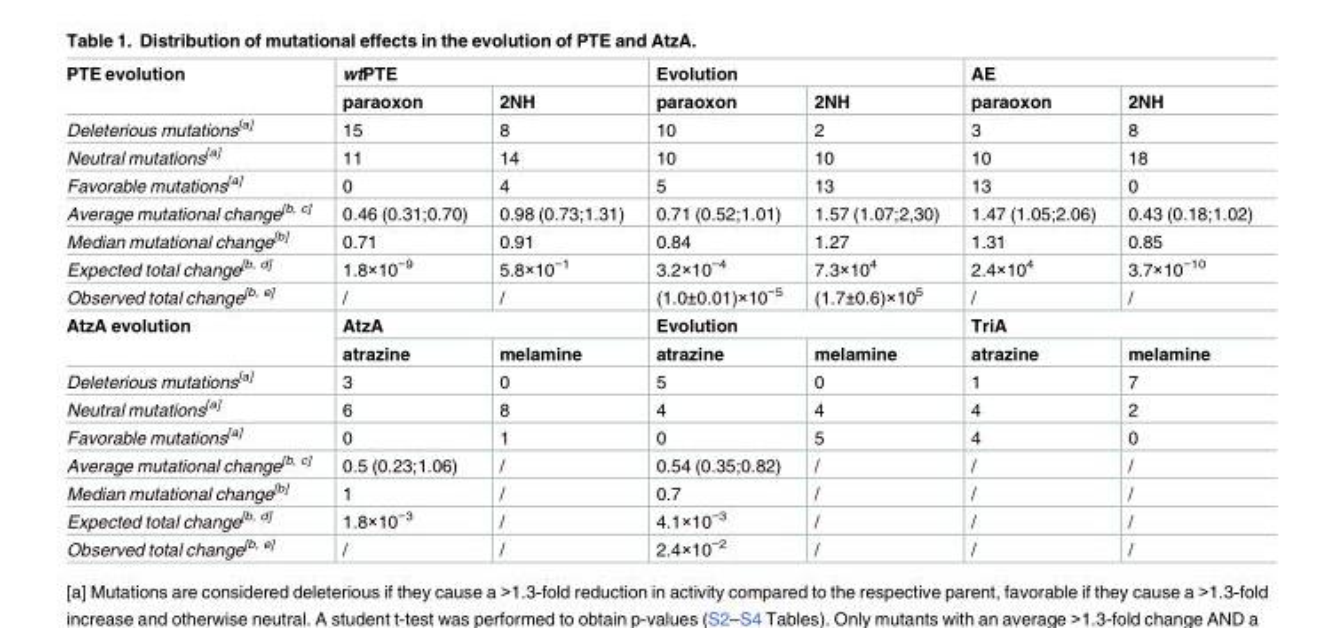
<table><tbody><tr><td rowspan="2">PTE evolution</td><td colspan="2">wtPTE</td><td colspan="2">Evolution</td><td colspan="2">AE</td></tr><tr><td>paraoxon</td><td>2NH</td><td>paraoxon</td><td>2NH</td><td>paraoxon</td><td>2NH</td></tr><tr><td>Deleterious mutations<sup>[a]</sup></td><td>15</td><td>8</td><td>10</td><td>2</td><td>3</td><td>8</td></tr><tr><td>Neutral mutations<sup>[a]</sup></td><td>11</td><td>14</td><td>10</td><td>10</td><td>10</td><td>18</td></tr><tr><td>Favorable mutations<sup>[a]</sup></td><td>0</td><td>4</td><td>5</td><td>13</td><td>13</td><td>0</td></tr><tr><td>Average mutational change<sup>[b, c]</sup></td><td>0.46 (0.31;0.70)</td><td>0.98 (0.73;1.31)</td><td>0.71 (0.52;1.01)</td><td>1.57 (1.07;2,30)</td><td>1.47 (1.05;2.06)</td><td>0.43 (0.18;1.02)</td></tr><tr><td>Median mutational change<sup>[b]</sup></td><td>0.71</td><td>0.91</td><td>0.84</td><td>1.27</td><td>1.31</td><td>0.85</td></tr><tr><td>Expected total change<sup>[b, d]</sup></td><td>1.8×10<sup>−9</sup></td><td>5.8×10<sup>−1</sup></td><td>3.2×10<sup>−4</sup></td><td>7.3×10<sup>4</sup></td><td>2.4×10<sup>4</sup></td><td>3.7×10<sup>−10</sup></td></tr><tr><td>Observed total change<sup>[b, e]</sup></td><td>/</td><td>/</td><td>(1.0±0.01)×10<sup>−5</sup></td><td>(1.7±0.6)×10<sup>5</sup></td><td>/</td><td>/</td></tr><tr><td rowspan="2">AtzA evolution</td><td colspan="2">AtzA</td><td colspan="2">Evolution</td><td colspan="2">TriA</td></tr><tr><td>atrazine</td><td>melamine</td><td>atrazine</td><td>melamine</td><td>atrazine</td><td>melamine</td></tr><tr><td>Deleterious mutations<sup>[a]</sup></td><td>3</td><td>0</td><td>5</td><td>0</td><td>1</td><td>7</td></tr><tr><td>Neutral mutations<sup>[a]</sup></td><td>6</td><td>8</td><td>4</td><td>4</td><td>4</td><td>2</td></tr><tr><td>Favorable mutations<sup>[a]</sup></td><td>0</td><td>1</td><td>0</td><td>5</td><td>4</td><td>0</td></tr><tr><td>Average mutational change<sup>[b, c]</sup></td><td>0.5 (0.23;1.06)</td><td>/</td><td>0.54 (0.35;0.82)</td><td>/</td><td>/</td><td>/</td></tr><tr><td>Median mutational change<sup>[b]</sup></td><td>1</td><td>/</td><td>0.7</td><td>/</td><td>/</td><td>/</td></tr><tr><td>Expected total change<sup>[b, d]</sup></td><td>1.8×10<sup>−3</sup></td><td>/</td><td>4.1×10<sup>−3</sup></td><td>/</td><td>/</td><td>/</td></tr><tr><td>Observed total change<sup>[b, e]</sup></td><td>/</td><td>/</td><td>2.4×10<sup>−2</sup></td><td>/</td><td>/</td><td>/</td></tr></tbody></table>